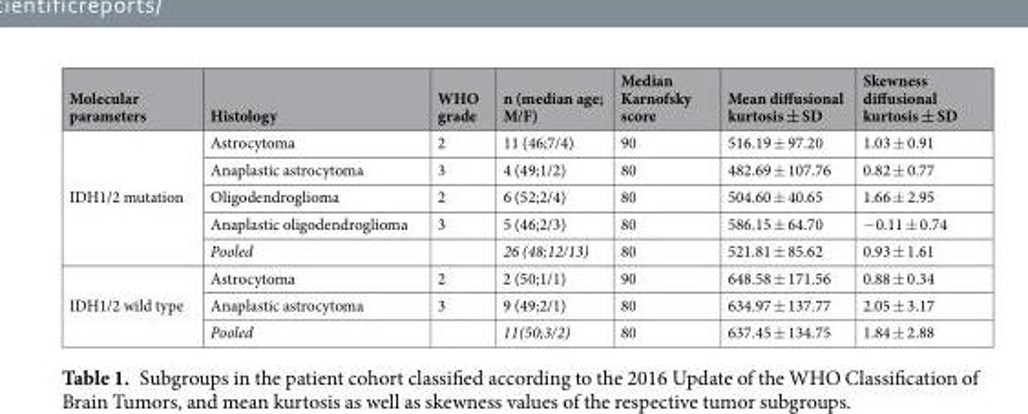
<table><thead><tr><td>Molecular parameters</td><td>Histology</td><td>WHO grade</td><td>n (median age; M/F)</td><td>Median Karnofsky score</td><td>Mean diffusional kurtosis ± SD</td><td>Skewness diffusional kurtosis ± SD</td></tr></thead><tbody><tr><td rowspan="5">IDH1/2 mutation</td><td>Astrocytoma</td><td>2</td><td>11 (46;7/4)</td><td>90</td><td>516.19 ± 97.20</td><td>1.03 ± 0.91</td></tr><tr><td>Anaplastic astrocytoma</td><td>3</td><td>4 (49;1/2)</td><td>80</td><td>482.69 ± 107.76</td><td>0.82 ± 0.77</td></tr><tr><td>Oligodendroglioma</td><td>2</td><td>6 (52;2/4)</td><td>80</td><td>504.60 ± 40.65</td><td>1.66 ± 2.95</td></tr><tr><td>Anaplastic oligodendroglioma</td><td>3</td><td>5 (46;2/3)</td><td>80</td><td>586.15 ± 64.70</td><td>−0.11 ± 0.74</td></tr><tr><td>Pooled</td><td></td><td>26 (48;12/13)</td><td>80</td><td>521.81 ± 85.62</td><td>0.93 ± 1.61</td></tr><tr><td rowspan="3">IDH1/2 wild type</td><td>Astrocytoma</td><td>2</td><td>2 (50;1/1)</td><td>90</td><td>648.58 ± 171.56</td><td>0.88 ± 0.34</td></tr><tr><td>Anaplastic astrocytoma</td><td>3</td><td>9 (49;2/1)</td><td>80</td><td>634.97 ± 137.77</td><td>2.05 ± 3.17</td></tr><tr><td>Pooled</td><td></td><td>11(50;3/2)</td><td>80</td><td>637.45 ± 134.75</td><td>1.84 ± 2.88</td></tr></tbody></table>